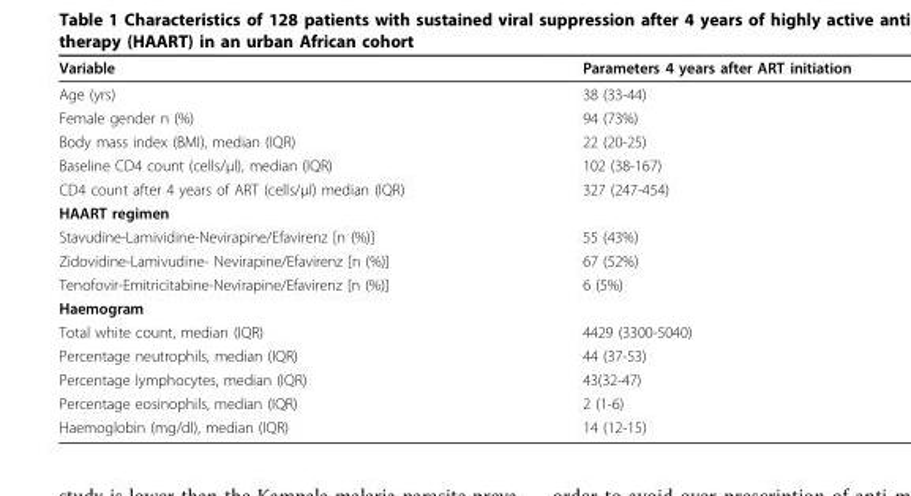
<table><thead><tr><td>Variable</td><td>Parameters 4 years after ART initiation</td></tr></thead><tbody><tr><td>Age (yrs)</td><td>38 (33-44)</td></tr><tr><td>Female gender n (%)</td><td>94 (73%)</td></tr><tr><td>Body mass index (BMI), median (IQR)</td><td>22 (20-25)</td></tr><tr><td>Baseline CD4 count (cells/μl), median (IQR)</td><td>102 (38-167)</td></tr><tr><td>CD4 count after 4 years of ART (cells/μl) median (IQR)</td><td>327 (247-454)</td></tr><tr><td colspan="2">HAART regimen</td></tr><tr><td>Stavudine-Lamividine-Nevirapine/Efavirenz [n (%)]</td><td>55 (43%)</td></tr><tr><td>Zidovidine-Lamivudine- Nevirapine/Efavirenz [n (%)]</td><td>67 (52%)</td></tr><tr><td>Tenofovir-Emitricitabine-Nevirapine/Efavirenz [n (%)]</td><td>6 (5%)</td></tr><tr><td colspan="2">Haemogram</td></tr><tr><td>Total white count, median (IQR)</td><td>4429 (3300-5040)</td></tr><tr><td>Percentage neutrophils, median (IQR)</td><td>44 (37-53)</td></tr><tr><td>Percentage lymphocytes, median (IQR)</td><td>43(32-47)</td></tr><tr><td>Percentage eosinophils, median (IQR)</td><td>2 (1-6)</td></tr><tr><td>Haemoglobin (mg/dl), median (IQR)</td><td>14 (12-15)</td></tr></tbody></table>